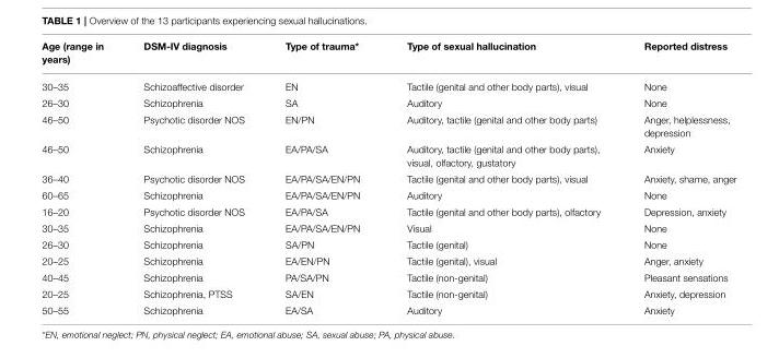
<table><thead><tr><td>Age (range in years)</td><td>DSM-IV diagnosis</td><td>Type of trauma*</td><td>Type of sexual hallucination</td><td>Reported distress</td></tr></thead><tbody><tr><td>30–35</td><td>Schizoaffective disorder</td><td>EN</td><td>Tactile (genital and other body parts), visual</td><td>None</td></tr><tr><td>26–30</td><td>Schizophrenia</td><td>SA</td><td>Auditory</td><td>None</td></tr><tr><td>46–50</td><td>Psychotic disorder NOS</td><td>EN/PN</td><td>Auditory, tactile (genital and other body parts)</td><td>Anger, helplessness, depression</td></tr><tr><td>46–50</td><td>Schizophrenia</td><td>EA/PA/SA</td><td>Auditory, tactile (genital and other body parts), visual, olfactory, gustatory</td><td>Anxiety</td></tr><tr><td>36–40</td><td>Psychotic disorder NOS</td><td>EA/PA/SA/EN/PN</td><td>Tactile (genital and other body parts), visual</td><td>Anxiety, shame, anger</td></tr><tr><td>60–65</td><td>Schizophrenia</td><td>EA/PA/SA/EN/PN</td><td>Auditory</td><td>None</td></tr><tr><td>16–20</td><td>Psychotic disorder NOS</td><td>EA/PA/SA</td><td>Tactile (genital and other body parts), olfactory</td><td>Depression, anxiety</td></tr><tr><td>30–35</td><td>Schizophrenia</td><td>EA/PA/SA/EN/PN</td><td>Visual</td><td>None</td></tr><tr><td>26–30</td><td>Schizophrenia</td><td>SA/PN</td><td>Tactile (genital)</td><td>None</td></tr><tr><td>20–25</td><td>Schizophrenia</td><td>EA/EN/PN</td><td>Tactile (genital), visual</td><td>Anger, anxiety</td></tr><tr><td>40–45</td><td>Schizophrenia</td><td>PA/SA/PN</td><td>Tactile (non-genital)</td><td>Pleasant sensations</td></tr><tr><td>20–25</td><td>Schizophrenia, PTSS</td><td>SA/EN</td><td>Tactile (non-genital)</td><td>Anxiety, depression</td></tr><tr><td>50–55</td><td>Schizophrenia</td><td>EA/SA</td><td>Auditory</td><td>Anxiety</td></tr></tbody></table>